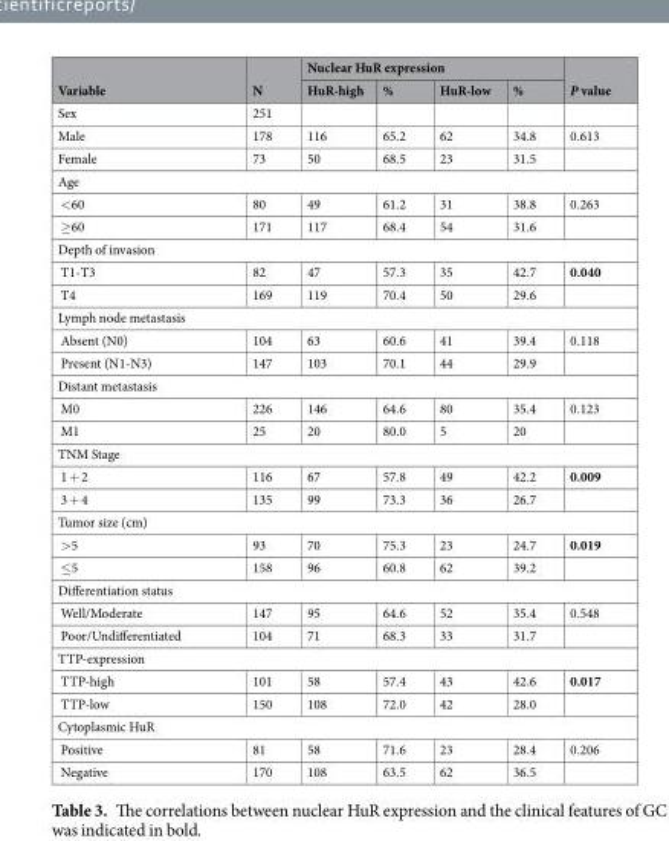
<table><thead><tr><td rowspan="2">Variable</td><td rowspan="2">N</td><td colspan="4">Nuclear HuR expression</td><td rowspan="2">P value</td></tr><tr><td>HuR-high</td><td>%</td><td>HuR-low</td><td>%</td></tr></thead><tbody><tr><td>Sex</td><td>251</td><td></td><td></td><td></td><td></td><td></td></tr><tr><td>Male</td><td>178</td><td>116</td><td>65.2</td><td>62</td><td>34.8</td><td>0.613</td></tr><tr><td>Female</td><td>73</td><td>50</td><td>68.5</td><td>23</td><td>31.5</td><td></td></tr><tr><td colspan="7">Age</td></tr><tr><td>&lt;60</td><td>80</td><td>49</td><td>61.2</td><td>31</td><td>38.8</td><td>0.263</td></tr><tr><td>≥60</td><td>171</td><td>117</td><td>68.4</td><td>54</td><td>31.6</td><td></td></tr><tr><td colspan="7">Depth of invasion</td></tr><tr><td>T1-T3</td><td>82</td><td>47</td><td>57.3</td><td>35</td><td>42.7</td><td>0.040</td></tr><tr><td>T4</td><td>169</td><td>119</td><td>70.4</td><td>50</td><td>29.6</td><td></td></tr><tr><td colspan="7">Lymph node metastasis</td></tr><tr><td>Absent (N0)</td><td>104</td><td>63</td><td>60.6</td><td>41</td><td>39.4</td><td>0.118</td></tr><tr><td>Present (N1-N3)</td><td>147</td><td>103</td><td>70.1</td><td>44</td><td>29.9</td><td></td></tr><tr><td colspan="7">Distant metastasis</td></tr><tr><td>M0</td><td>226</td><td>146</td><td>64.6</td><td>80</td><td>35.4</td><td>0.123</td></tr><tr><td>M1</td><td>25</td><td>20</td><td>80.0</td><td>5</td><td>20</td><td></td></tr><tr><td colspan="7">TNM Stage</td></tr><tr><td>1 + 2</td><td>116</td><td>67</td><td>57.8</td><td>49</td><td>42.2</td><td>0.009</td></tr><tr><td>3 + 4</td><td>135</td><td>99</td><td>73.3</td><td>36</td><td>26.7</td><td></td></tr><tr><td colspan="7">Tumor size (cm)</td></tr><tr><td>&gt;5</td><td>93</td><td>70</td><td>75.3</td><td>23</td><td>24.7</td><td>0.019</td></tr><tr><td>≤5</td><td>158</td><td>96</td><td>60.8</td><td>62</td><td>39.2</td><td></td></tr><tr><td colspan="7">Differentiation status</td></tr><tr><td>Well/Moderate</td><td>147</td><td>95</td><td>64.6</td><td>52</td><td>35.4</td><td>0.548</td></tr><tr><td>Poor/Undifferentiated</td><td>104</td><td>71</td><td>68.3</td><td>33</td><td>31.7</td><td></td></tr><tr><td colspan="7">TTP-expression</td></tr><tr><td>TTP-high</td><td>101</td><td>58</td><td>57.4</td><td>43</td><td>42.6</td><td>0.017</td></tr><tr><td>TTP-low</td><td>150</td><td>108</td><td>72.0</td><td>42</td><td>28.0</td><td></td></tr><tr><td colspan="7">Cytoplasmic HuR</td></tr><tr><td>Positive</td><td>81</td><td>58</td><td>71.6</td><td>23</td><td>28.4</td><td>0.206</td></tr><tr><td>Negative</td><td>170</td><td>108</td><td>63.5</td><td>62</td><td>36.5</td><td></td></tr></tbody></table>